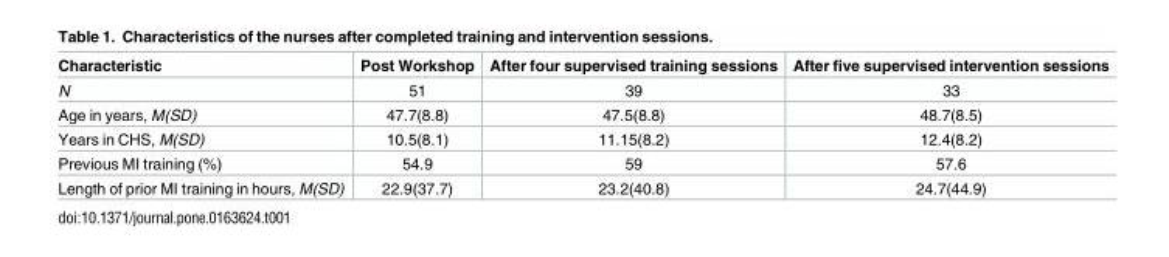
<table><thead><tr><td>Characteristic</td><td>Post Workshop</td><td>After four supervised training sessions</td><td>After five supervised intervention sessions</td></tr></thead><tbody><tr><td>N</td><td>51</td><td>39</td><td>33</td></tr><tr><td>Age in years, M(SD)</td><td>47.7(8.8)</td><td>47.5(8.8)</td><td>48.7(8.5)</td></tr><tr><td>Years in CHS, M(SD)</td><td>10.5(8.1)</td><td>11.15(8.2)</td><td>12.4(8.2)</td></tr><tr><td>Previous MI training (%)</td><td>54.9</td><td>59</td><td>57.6</td></tr><tr><td>Length of prior MI training in hours, M(SD)</td><td>22.9(37.7)</td><td>23.2(40.8)</td><td>24.7(44.9)</td></tr></tbody></table>